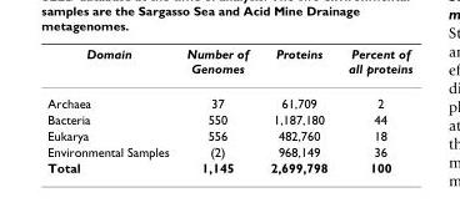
<table><thead><tr><td>Domain</td><td>Number of Genomes</td><td>Proteins</td><td>Percent of all proteins</td></tr></thead><tbody><tr><td>Archaea</td><td>37</td><td>61,709</td><td>2</td></tr><tr><td>Bacteria</td><td>550</td><td>1,187,180</td><td>44</td></tr><tr><td>Eukarya</td><td>556</td><td>482,760</td><td>18</td></tr><tr><td>Environmental Samples</td><td>(2)</td><td>968,149</td><td>36</td></tr><tr><td>Total</td><td>1,145</td><td>2,699,798</td><td>100</td></tr></tbody></table>